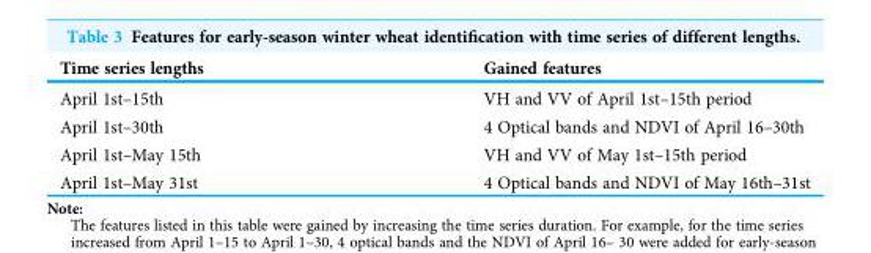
<table><thead><tr><td>Time series lengths</td><td>Gained features</td></tr></thead><tbody><tr><td>April 1st–15th</td><td>VH and VV of April 1st–15th period</td></tr><tr><td>April 1st–30th</td><td>4 Optical bands and NDVI of April 16–30th</td></tr><tr><td>April 1st–May 15th</td><td>VH and VV of May 1st–15th period</td></tr><tr><td>April 1st–May 31st</td><td>4 Optical bands and NDVI of May 16th–31st</td></tr></tbody></table>